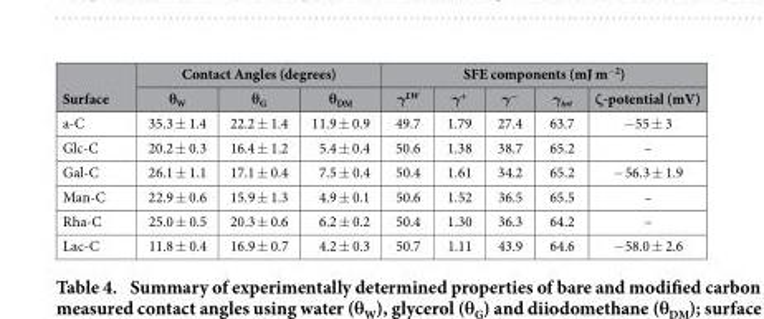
<table><thead><tr><td rowspan="2">Surface</td><td colspan="3">Contact Angles (degrees)</td><td colspan="5">SFE components (mJ m<sup>−2</sup>)</td></tr><tr><td>θ<sub>W</sub></td><td>θ<sub>G</sub></td><td>θ<sub>DM</sub></td><td>γ<sup>LW</sup></td><td>γ<sup>+</sup></td><td>γ<sup>−</sup></td><td>γ<sub>tot</sub></td><td>ζ-potential (mV)</td></tr></thead><tbody><tr><td>a-C</td><td>35.3 ± 1.4</td><td>22.2 ± 1.4</td><td>11.9 ± 0.9</td><td>49.7</td><td>1.79</td><td>27.4</td><td>63.7</td><td>−55 ± 3</td></tr><tr><td>Glc-C</td><td>20.2 ± 0.3</td><td>16.4 ± 1.2</td><td>5.4 ± 0.4</td><td>50.6</td><td>1.38</td><td>38.7</td><td>65.2</td><td>–</td></tr><tr><td>Gal-C</td><td>26.1 ± 1.1</td><td>17.1 ± 0.4</td><td>7.5 ± 0.4</td><td>50.4</td><td>1.61</td><td>34.2</td><td>65.2</td><td>− 56.3 ± 1.9</td></tr><tr><td>Man-C</td><td>22.9 ± 0.6</td><td>15.9 ± 1.3</td><td>4.9 ± 0.1</td><td>50.6</td><td>1.52</td><td>36.5</td><td>65.5</td><td>–</td></tr><tr><td>Rha-C</td><td>25.0 ± 0.5</td><td>20.3 ± 0.6</td><td>6.2 ± 0.2</td><td>50.4</td><td>1.30</td><td>36.3</td><td>64.2</td><td>–</td></tr><tr><td>Lac-C</td><td>11.8 ± 0.4</td><td>16.9 ± 0.7</td><td>4.2 ± 0.3</td><td>50.7</td><td>1.11</td><td>43.9</td><td>64.6</td><td>−58.0 ± 2.6</td></tr></tbody></table>